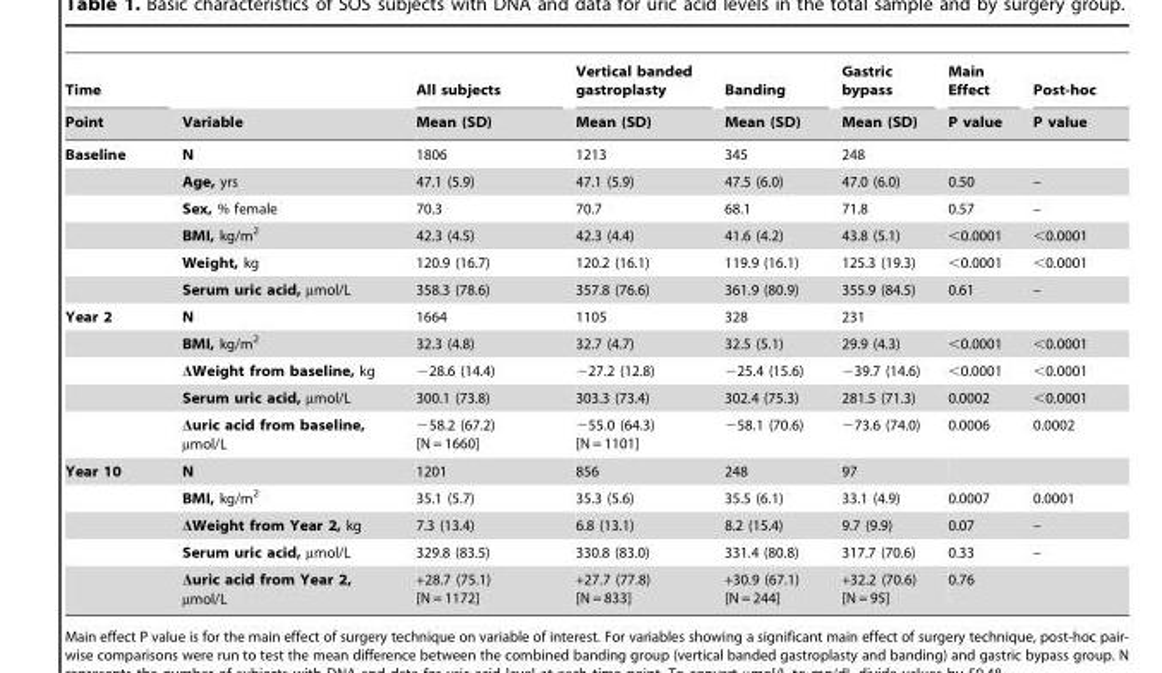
<table><thead><tr><td rowspan="2">Time Point</td><td rowspan="2">Variable</td><td rowspan="2">All subjects Mean (SD)</td><td rowspan="2">Vertical banded gastroplasty Mean (SD)</td><td rowspan="2">Banding Mean (SD)</td><td rowspan="2">Gastric bypass Mean (SD)</td><td rowspan="2">Main Effect P value</td><td rowspan="2">Post-hoc P value</td></tr><tr></tr></thead><tbody><tr><td rowspan="6">Baseline</td><td>N</td><td>1806</td><td>1213</td><td>345</td><td>248</td><td></td><td></td></tr><tr><td>Age, yrs</td><td>47.1 (5.9)</td><td>47.1 (5.9)</td><td>47.5 (6.0)</td><td>47.0 (6.0)</td><td>0.50</td><td>–</td></tr><tr><td>Sex, % female</td><td>70.3</td><td>70.7</td><td>68.1</td><td>71.8</td><td>0.57</td><td>–</td></tr><tr><td>BMI, kg/m<sup>2</sup></td><td>42.3 (4.5)</td><td>42.3 (4.4)</td><td>41.6 (4.2)</td><td>43.8 (5.1)</td><td>&lt;0.0001</td><td>&lt;0.0001</td></tr><tr><td>Weight, kg</td><td>120.9 (16.7)</td><td>120.2 (16.1)</td><td>119.9 (16.1)</td><td>125.3 (19.3)</td><td>&lt;0.0001</td><td>&lt;0.0001</td></tr><tr><td>Serum uric acid, µmol/L</td><td>358.3 (78.6)</td><td>357.8 (76.6)</td><td>361.9 (80.9)</td><td>355.9 (84.5)</td><td>0.61</td><td>–</td></tr><tr><td rowspan="5">Year 2</td><td>N</td><td>1664</td><td>1105</td><td>328</td><td>231</td><td></td><td></td></tr><tr><td>BMI, kg/m<sup>2</sup></td><td>32.3 (4.8)</td><td>32.7 (4.7)</td><td>32.5 (5.1)</td><td>29.9 (4.3)</td><td>&lt;0.0001</td><td>&lt;0.0001</td></tr><tr><td>ΔWeight from baseline, kg</td><td>−28.6 (14.4)</td><td>−27.2 (12.8)</td><td>−25.4 (15.6)</td><td>−39.7 (14.6)</td><td>&lt;0.0001</td><td>&lt;0.0001</td></tr><tr><td>Serum uric acid, µmol/L</td><td>300.1 (73.8)</td><td>303.3 (73.4)</td><td>302.4 (75.3)</td><td>281.5 (71.3)</td><td>0.0002</td><td>&lt;0.0001</td></tr><tr><td>Δuric acid from baseline, µmol/L</td><td>−58.2 (67.2) [N = 1660]</td><td>−55.0 (64.3) [N = 1101]</td><td>−58.1 (70.6)</td><td>−73.6 (74.0)</td><td>0.0006</td><td>0.0002</td></tr><tr><td rowspan="5">Year 10</td><td>N</td><td>1201</td><td>856</td><td>248</td><td>97</td><td></td><td></td></tr><tr><td>BMI, kg/m<sup>2</sup></td><td>35.1 (5.7)</td><td>35.3 (5.6)</td><td>35.5 (6.1)</td><td>33.1 (4.9)</td><td>0.0007</td><td>0.0001</td></tr><tr><td>ΔWeight from Year 2, kg</td><td>7.3 (13.4)</td><td>6.8 (13.1)</td><td>8.2 (15.4)</td><td>9.7 (9.9)</td><td>0.07</td><td>–</td></tr><tr><td>Serum uric acid, µmol/L</td><td>329.8 (83.5)</td><td>330.8 (83.0)</td><td>331.4 (80.8)</td><td>317.7 (70.6)</td><td>0.33</td><td>–</td></tr><tr><td>Δuric acid from Year 2, µmol/L</td><td>+28.7 (75.1) [N = 1172]</td><td>+27.7 (77.8) [N = 833]</td><td>+30.9 (67.1) [N = 244]</td><td>+32.2 (70.6) [N = 95]</td><td>0.76</td><td></td></tr></tbody></table>